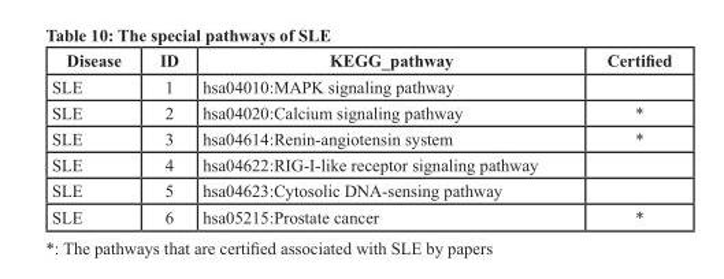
<table><thead><tr><td>Disease</td><td>ID</td><td>KEGG_pathway</td><td>Certified</td></tr></thead><tbody><tr><td>SLE</td><td>1</td><td>hsa04010:MAPK signaling pathway</td><td></td></tr><tr><td>SLE</td><td>2</td><td>hsa04020:Calcium signaling pathway</td><td>*</td></tr><tr><td>SLE</td><td>3</td><td>hsa04614:Renin-angiotensin system</td><td>*</td></tr><tr><td>SLE</td><td>4</td><td>hsa04622:RIG-I-like receptor signaling pathway</td><td></td></tr><tr><td>SLE</td><td>5</td><td>hsa04623:Cytosolic DNA-sensing pathway</td><td></td></tr><tr><td>SLE</td><td>6</td><td>hsa05215:Prostate cancer</td><td>*</td></tr></tbody></table>